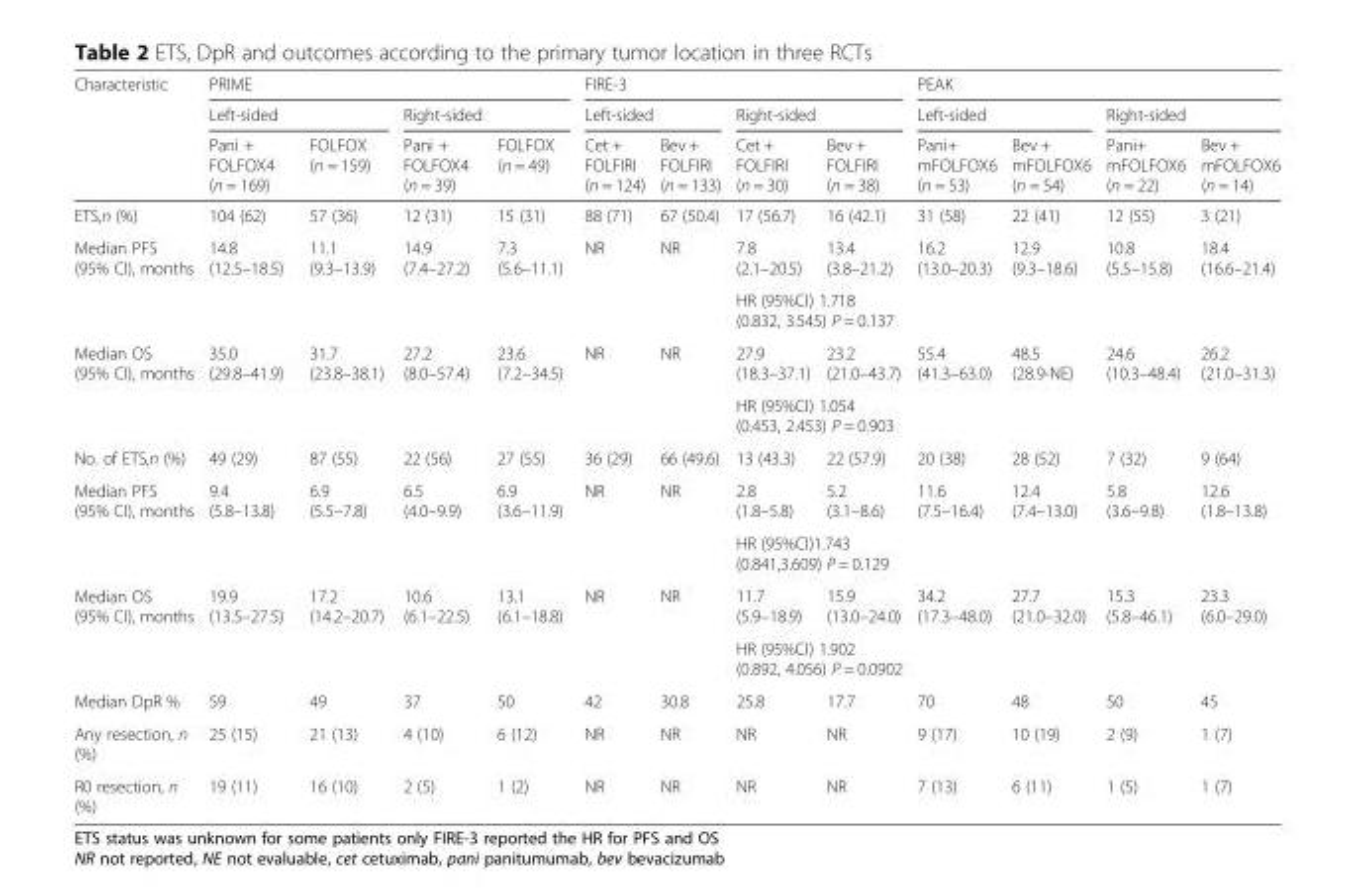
<table><thead><tr><td rowspan="3">Characteristic</td><td colspan="4">PRIME</td><td colspan="4">FIRE-3</td><td colspan="4">PEAK</td></tr><tr><td colspan="2">Left-sided</td><td colspan="2">Right-sided</td><td colspan="2">Left-sided</td><td colspan="2">Right-sided</td><td colspan="2">Left-sided</td><td colspan="2">Right-sided</td></tr><tr><td>Pani + FOLFOX4 (n = 169)</td><td>FOLFOX (n = 159)</td><td>Pani + FOLFOX4 (n = 39)</td><td>FOLFOX (n = 49)</td><td>Cet + FOLFIRI (n = 124)</td><td>Bev + FOLFIRI (n = 133)</td><td>Cet + FOLFIRI (n = 30)</td><td>Bev + FOLFIRI (n = 38)</td><td>Pani+ mFOLFOX6 (n = 53)</td><td>Bev + mFOLFOX6 (n = 54)</td><td>Pani+ mFOLFOX6 (n = 22)</td><td>Bev + mFOLFOX6 (n = 14)</td></tr></thead><tbody><tr><td>ETS,n (%)</td><td>104 (62)</td><td>57 (36)</td><td>12 (31)</td><td>15 (31)</td><td>88 (71)</td><td>67 (50.4)</td><td>17 (56.7)</td><td>16 (42.1)</td><td>31 (58)</td><td>22 (41)</td><td>12 (55)</td><td>3 (21)</td></tr><tr><td rowspan="2">Median PFS (95% CI), months</td><td rowspan="2">14.8 (12.5–18.5)</td><td rowspan="2">11.1 (9.3–13.9)</td><td rowspan="2">14.9 (7.4–27.2)</td><td rowspan="2">7.3 (5.6–11.1)</td><td rowspan="2">NR</td><td rowspan="2">NR</td><td>7.8 (2.1–20.5)</td><td>13.4 (3.8–21.2)</td><td rowspan="2">16.2 (13.0–20.3)</td><td rowspan="2">12.9 (9.3–18.6)</td><td rowspan="2">10.8 (5.5–15.8)</td><td rowspan="2">18.4 (16.6–21.4)</td></tr><tr><td colspan="2">HR (95%CI) 1.718 (0.832, 3.545) P = 0.137</td></tr><tr><td rowspan="2">Median OS (95% CI), months</td><td rowspan="2">35.0 (29.8–41.9)</td><td rowspan="2">31.7 (23.8–38.1)</td><td rowspan="2">27.2 (8.0–57.4)</td><td rowspan="2">23.6 (7.2–34.5)</td><td rowspan="2">NR</td><td rowspan="2">NR</td><td>27.9 (18.3–37.1)</td><td>23.2 (21.0–43.7)</td><td rowspan="2">55.4 (41.3–63.0)</td><td rowspan="2">48.5 (28.9-NE)</td><td rowspan="2">24.6 (10.3–48.4)</td><td rowspan="2">26.2 (21.0–31.3)</td></tr><tr><td colspan="2">HR (95%CI) 1.054 (0.453, 2.453) P = 0.903</td></tr><tr><td>No. of ETS,n (%)</td><td>49 (29)</td><td>87 (55)</td><td>22 (56)</td><td>27 (55)</td><td>36 (29)</td><td>66 (49.6)</td><td>13 (43.3)</td><td>22 (57.9)</td><td>20 (38)</td><td>28 (52)</td><td>7 (32)</td><td>9 (64)</td></tr><tr><td rowspan="2">Median PFS (95% CI), months</td><td rowspan="2">9.4 (5.8–13.8)</td><td rowspan="2">6.9 (5.5–7.8)</td><td rowspan="2">6.5 (4.0–9.9)</td><td rowspan="2">6.9 (3.6–11.9)</td><td rowspan="2">NR</td><td rowspan="2">NR</td><td>2.8 (1.8–5.8)</td><td>5.2 (3.1–8.6)</td><td rowspan="2">11.6 (7.5–16.4)</td><td rowspan="2">12.4 (7.4–13.0)</td><td rowspan="2">5.8 (3.6–9.8)</td><td rowspan="2">12.6 (1.8–13.8)</td></tr><tr><td colspan="2">HR (95%CI)1.743 (0.841,3.609) P = 0.129</td></tr><tr><td rowspan="2">Median OS (95% CI), months</td><td rowspan="2">19.9 (13.5–27.5)</td><td rowspan="2">17.2 (14.2–20.7)</td><td rowspan="2">10.6 (6.1–22.5)</td><td rowspan="2">13.1 (6.1–18.8)</td><td rowspan="2">NR</td><td rowspan="2">NR</td><td>11.7 (5.9–18.9)</td><td>15.9 (13.0–24.0)</td><td rowspan="2">34.2 (17.3–48.0)</td><td rowspan="2">27.7 (21.0–32.0)</td><td rowspan="2">15.3 (5.8–46.1)</td><td rowspan="2">23.3 (6.0–29.0)</td></tr><tr><td colspan="2">HR (95%CI) 1.902 (0.892, 4.056) P = 0.0902</td></tr><tr><td>Median DpR %</td><td>59</td><td>49</td><td>37</td><td>50</td><td>42</td><td>30.8</td><td>25.8</td><td>17.7</td><td>70</td><td>48</td><td>50</td><td>45</td></tr><tr><td>Any resection, n (%)</td><td>25 (15)</td><td>21 (13)</td><td>4 (10)</td><td>6 (12)</td><td>NR</td><td>NR</td><td>NR</td><td>NR</td><td>9 (17)</td><td>10 (19)</td><td>2 (9)</td><td>1 (7)</td></tr><tr><td>R0 resection, n (%)</td><td>19 (11)</td><td>16 (10)</td><td>2 (5)</td><td>1 (2)</td><td>NR</td><td>NR</td><td>NR</td><td>NR</td><td>7 (13)</td><td>6 (11)</td><td>1 (5)</td><td>1 (7)</td></tr></tbody></table>